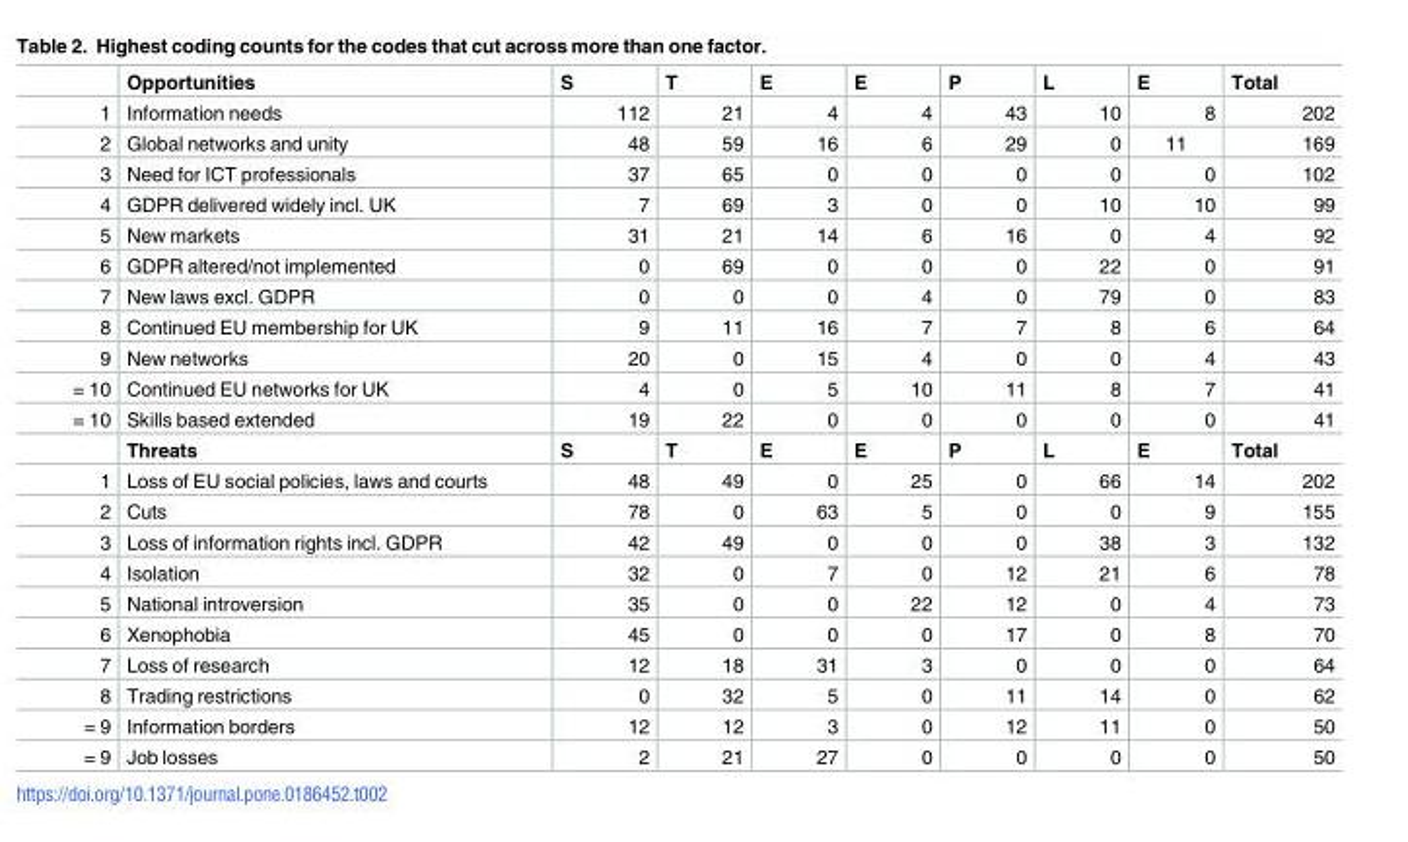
<table><thead><tr><td></td><td>Opportunities</td><td>S</td><td>T</td><td>E</td><td>E</td><td>P</td><td>L</td><td>E</td><td>Total</td></tr></thead><tbody><tr><td>1</td><td>Information needs</td><td>112</td><td>21</td><td>4</td><td>4</td><td>43</td><td>10</td><td>8</td><td>202</td></tr><tr><td>2</td><td>Global networks and unity</td><td>48</td><td>59</td><td>16</td><td>6</td><td>29</td><td>0</td><td>11</td><td>169</td></tr><tr><td>3</td><td>Need for ICT professionals</td><td>37</td><td>65</td><td>0</td><td>0</td><td>0</td><td>0</td><td>0</td><td>102</td></tr><tr><td>4</td><td>GDPR delivered widely incl. UK</td><td>7</td><td>69</td><td>3</td><td>0</td><td>0</td><td>10</td><td>10</td><td>99</td></tr><tr><td>5</td><td>New markets</td><td>31</td><td>21</td><td>14</td><td>6</td><td>16</td><td>0</td><td>4</td><td>92</td></tr><tr><td>6</td><td>GDPR altered/not implemented</td><td>0</td><td>69</td><td>0</td><td>0</td><td>0</td><td>22</td><td>0</td><td>91</td></tr><tr><td>7</td><td>New laws excl. GDPR</td><td>0</td><td>0</td><td>0</td><td>4</td><td>0</td><td>79</td><td>0</td><td>83</td></tr><tr><td>8</td><td>Continued EU membership for UK</td><td>9</td><td>11</td><td>16</td><td>7</td><td>7</td><td>8</td><td>6</td><td>64</td></tr><tr><td>9</td><td>New networks</td><td>20</td><td>0</td><td>15</td><td>4</td><td>0</td><td>0</td><td>4</td><td>43</td></tr><tr><td>= 10</td><td>Continued EU networks for UK</td><td>4</td><td>0</td><td>5</td><td>10</td><td>11</td><td>8</td><td>7</td><td>41</td></tr><tr><td rowspan="2">= 10</td><td>Skills based extended</td><td>19</td><td>22</td><td>0</td><td>0</td><td>0</td><td>0</td><td>0</td><td>41</td></tr><tr><td>Threats</td><td>S</td><td>T</td><td>E</td><td>E</td><td>P</td><td>L</td><td>E</td><td>Total</td></tr><tr><td>1</td><td>Loss of EU social policies, laws and courts</td><td>48</td><td>49</td><td>0</td><td>25</td><td>0</td><td>66</td><td>14</td><td>202</td></tr><tr><td>2</td><td>Cuts</td><td>78</td><td>0</td><td>63</td><td>5</td><td>0</td><td>0</td><td>9</td><td>155</td></tr><tr><td>3</td><td>Loss of information rights incl. GDPR</td><td>42</td><td>49</td><td>0</td><td>0</td><td>0</td><td>38</td><td>3</td><td>132</td></tr><tr><td>4</td><td>Isolation</td><td>32</td><td>0</td><td>7</td><td>0</td><td>12</td><td>21</td><td>6</td><td>78</td></tr><tr><td>5</td><td>National introversion</td><td>35</td><td>0</td><td>0</td><td>22</td><td>12</td><td>0</td><td>4</td><td>73</td></tr><tr><td>6</td><td>Xenophobia</td><td>45</td><td>0</td><td>0</td><td>0</td><td>17</td><td>0</td><td>8</td><td>70</td></tr><tr><td>7</td><td>Loss of research</td><td>12</td><td>18</td><td>31</td><td>3</td><td>0</td><td>0</td><td>0</td><td>64</td></tr><tr><td>8</td><td>Trading restrictions</td><td>0</td><td>32</td><td>5</td><td>0</td><td>11</td><td>14</td><td>0</td><td>62</td></tr><tr><td>= 9</td><td>Information borders</td><td>12</td><td>12</td><td>3</td><td>0</td><td>12</td><td>11</td><td>0</td><td>50</td></tr><tr><td>= 9</td><td>Job losses</td><td>2</td><td>21</td><td>27</td><td>0</td><td>0</td><td>0</td><td>0</td><td>50</td></tr></tbody></table>